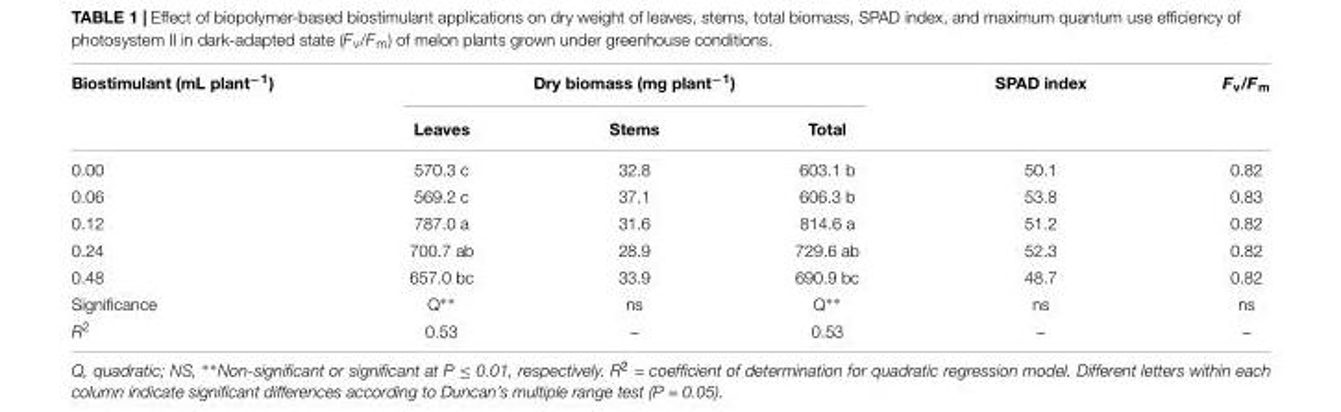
<table><thead><tr><td rowspan="2">Biostimulant (mL plant<sup>−1</sup>)</td><td colspan="3">Dry biomass (mg plant<sup>−1</sup>)</td><td rowspan="2">SPAD index</td><td rowspan="2">F<sub>v</sub>/F<sub>m</sub></td></tr><tr><td>Leaves</td><td>Stems</td><td>Total</td></tr></thead><tbody><tr><td>0.00</td><td>570.3 c</td><td>32.8</td><td>603.1 b</td><td>50.1</td><td>0.82</td></tr><tr><td>0.06</td><td>569.2 c</td><td>37.1</td><td>606.3 b</td><td>53.8</td><td>0.83</td></tr><tr><td>0.12</td><td>787.0 a</td><td>31.6</td><td>814.6 a</td><td>51.2</td><td>0.82</td></tr><tr><td>0.24</td><td>700.7 ab</td><td>28.9</td><td>729.6 ab</td><td>52.3</td><td>0.82</td></tr><tr><td>0.48</td><td>657.0 bc</td><td>33.9</td><td>690.9 bc</td><td>48.7</td><td>0.82</td></tr><tr><td>Significance</td><td>Q∗∗</td><td>ns</td><td>Q∗∗</td><td>ns</td><td>ns</td></tr><tr><td>R<sup>2</sup></td><td>0.53</td><td>–</td><td>0.53</td><td>–</td><td>–</td></tr></tbody></table>